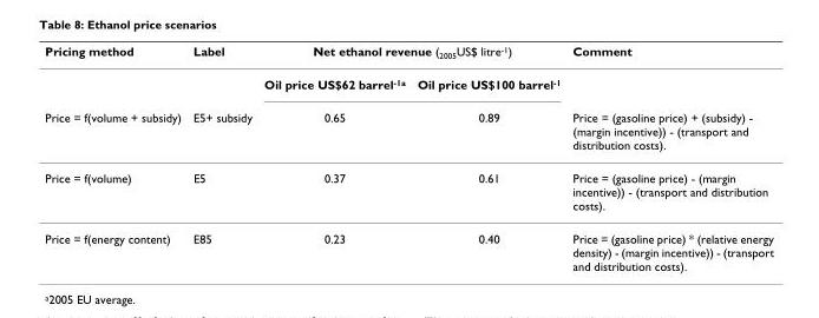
<table><thead><tr><td rowspan="2">Pricing method</td><td rowspan="2">Label</td><td colspan="2">Net ethanol revenue (<sub>2005</sub>US$ litre<sup>-1</sup>)</td><td rowspan="2">Comment</td></tr><tr><td>Oil price US$62 barrel<sup>-1a</sup></td><td>Oil price US$100 barrel<sup>-1</sup></td></tr></thead><tbody><tr><td>Price = f(volume + subsidy)</td><td>E5+ subsidy</td><td>0.65</td><td>0.89</td><td>Price = (gasoline price) + (subsidy) - (margin incentive)) - (transport and distribution costs).</td></tr><tr><td>Price = f(volume)</td><td>E5</td><td>0.37</td><td>0.61</td><td>Price = (gasoline price) - (margin incentive)) - (transport and distribution costs).</td></tr><tr><td>Price = f(energy content)</td><td>E85</td><td>0.23</td><td>0.40</td><td>Price = (gasoline price) * (relative energy density) - (margin incentive)) - (transport and distribution costs).</td></tr></tbody></table>